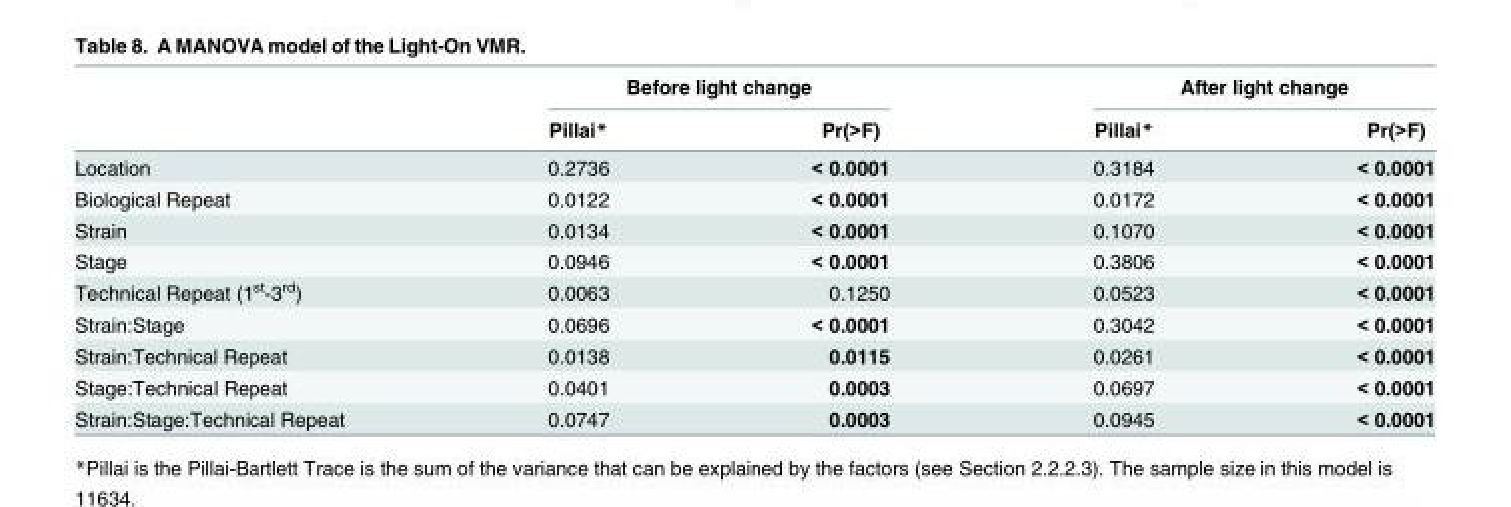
<table><thead><tr><td rowspan="2"></td><td colspan="2">Before light change</td><td colspan="2">After light change</td></tr><tr><td>Pillai*</td><td>Pr(&gt;F)</td><td>Pillai*</td><td>Pr(&gt;F)</td></tr></thead><tbody><tr><td>Location</td><td>0.2736</td><td>&lt; 0.0001</td><td>0.3184</td><td>&lt; 0.0001</td></tr><tr><td>Biological Repeat</td><td>0.0122</td><td>&lt; 0.0001</td><td>0.0172</td><td>&lt; 0.0001</td></tr><tr><td>Strain</td><td>0.0134</td><td>&lt; 0.0001</td><td>0.1070</td><td>&lt; 0.0001</td></tr><tr><td>Stage</td><td>0.0946</td><td>&lt; 0.0001</td><td>0.3806</td><td>&lt; 0.0001</td></tr><tr><td>Technical Repeat (1<sup>st</sup>-3<sup>rd</sup>)</td><td>0.0063</td><td>0.1250</td><td>0.0523</td><td>&lt; 0.0001</td></tr><tr><td>Strain:Stage</td><td>0.0696</td><td>&lt; 0.0001</td><td>0.3042</td><td>&lt; 0.0001</td></tr><tr><td>Strain:Technical Repeat</td><td>0.0138</td><td>0.0115</td><td>0.0261</td><td>&lt; 0.0001</td></tr><tr><td>Stage:Technical Repeat</td><td>0.0401</td><td>0.0003</td><td>0.0697</td><td>&lt; 0.0001</td></tr><tr><td>Strain:Stage:Technical Repeat</td><td>0.0747</td><td>0.0003</td><td>0.0945</td><td>&lt; 0.0001</td></tr></tbody></table>